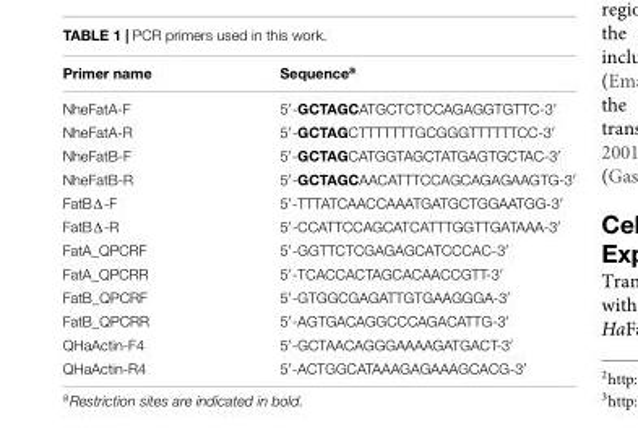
<table><thead><tr><td>Primer name</td><td>Sequence<sup>a</sup></td></tr></thead><tbody><tr><td>NheFatA-F</td><td>5′-GCTAGCATGCTCTCCAGAGGTGTTC-3′</td></tr><tr><td>NheFatA-R</td><td>5′-GCTAGCTTTTTTTGCGGGTTTTTTCC-3′</td></tr><tr><td>NheFatB-F</td><td>5′-GCTAGCATGGTAGCTATGAGTGCTAC-3′</td></tr><tr><td>NheFatB-R</td><td>5′-GCTAGCAACATTTCCAGCAGAGAAGTG-3′</td></tr><tr><td>FatBΔ-F</td><td>5′-TTTATCAACCAAATGATGCTGGAATGG-3′</td></tr><tr><td>FatBΔ-R</td><td>5′-CCATTCCAGCATCATTTGGTTGATAAA-3′</td></tr><tr><td>FatA_QPCRF</td><td>5′-GGTTCTCGAGAGCATCCCAC-3′</td></tr><tr><td>FatA_QPCRR</td><td>5′-TCACCACTAGCACAACCGTT-3′</td></tr><tr><td>FatB_QPCRF</td><td>5′-GTGGCGAGATTGTGAAGGGA-3′</td></tr><tr><td>FatB_QPCRR</td><td>5′-AGTGACAGGCCCAGACATTG-3′</td></tr><tr><td>QHaActin-F4</td><td>5′-GCTAACAGGGAAAAGATGACT-3′</td></tr><tr><td>QHaActin-R4</td><td>5′-ACTGGCATAAAGAGAAAGCACG-3′</td></tr></tbody></table>